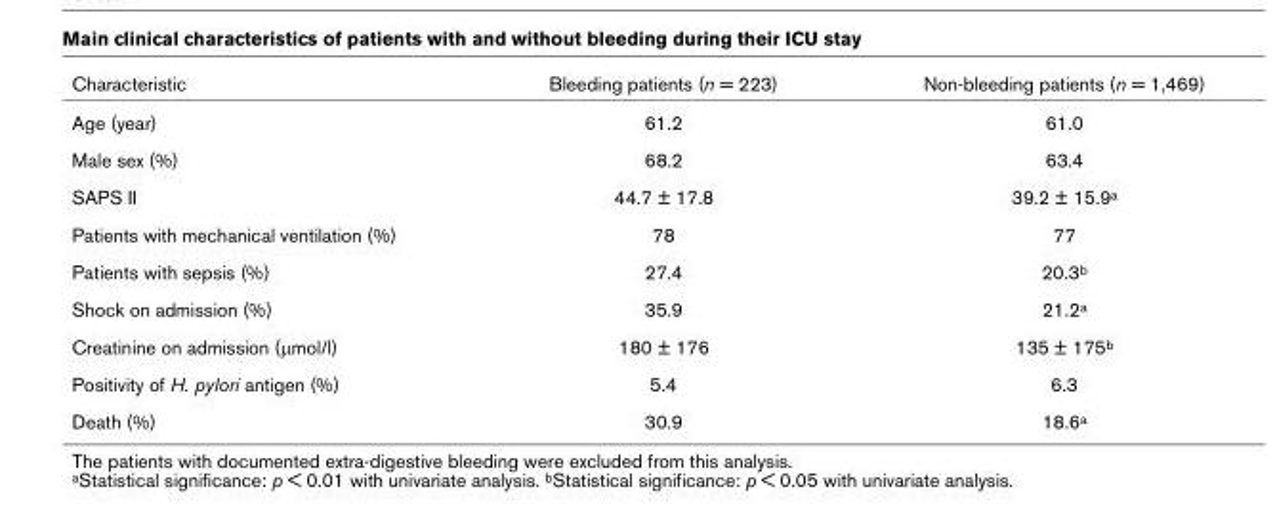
<table><thead><tr><td>Characteristic</td><td>Bleeding patients (n = 223)</td><td>Non-bleeding patients (n = 1,469)</td></tr></thead><tbody><tr><td>Age (year)</td><td>61.2</td><td>61.0</td></tr><tr><td>Male sex (%)</td><td>68.2</td><td>63.4</td></tr><tr><td>SAPS II</td><td>44.7 ± 17.8</td><td>39.2 ± 15.9a</td></tr><tr><td>Patients with mechanical ventilation (%)</td><td>78</td><td>77</td></tr><tr><td>Patients with sepsis (%)</td><td>27.4</td><td>20.3b</td></tr><tr><td>Shock on admission (%)</td><td>35.9</td><td>21.2a</td></tr><tr><td>Creatinine on admission (µmol/l)</td><td>180 ± 176</td><td>135 ± 175b</td></tr><tr><td>Positivity of H. pylori antigen (%)</td><td>5.4</td><td>6.3</td></tr><tr><td>Death (%)</td><td>30.9</td><td>18.6a</td></tr></tbody></table>